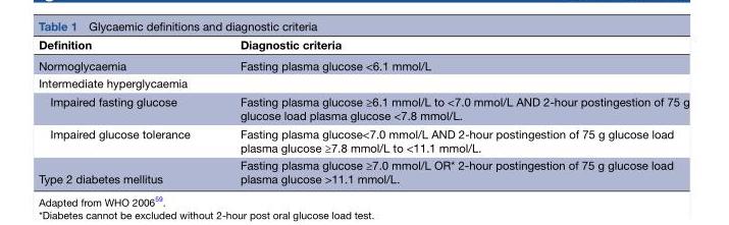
<table><thead><tr><td>Definition</td><td>Diagnostic criteria</td></tr></thead><tbody><tr><td>Normoglycaemia</td><td>Fasting plasma glucose &lt;6.1 mmol/L</td></tr><tr><td colspan="2">Intermediate hyperglycaemia</td></tr><tr><td>Impaired fasting glucose</td><td>Fasting plasma glucose ≥6.1 mmol/L to &lt;7.0 mmol/L AND 2-hour postingestion of 75 g glucose load plasma glucose &lt;7.8 mmol/L.</td></tr><tr><td>Impaired glucose tolerance</td><td>Fasting plasma glucose&lt;7.0 mmol/L AND 2-hour postingestion of 75 g glucose load plasma glucose ≥7.8 mmol/L to &lt;11.1 mmol/L.</td></tr><tr><td>Type 2 diabetes mellitus</td><td>Fasting plasma glucose ≥7.0 mmol/L OR* 2-hour postingestion of 75 g glucose load plasma glucose &gt;11.1 mmol/L.</td></tr></tbody></table>